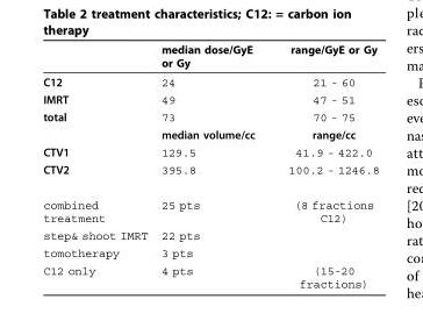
<table><thead><tr><td></td><td>median dose/GyE or Gy</td><td>range/GyE or Gy</td></tr></thead><tbody><tr><td>C12</td><td>24</td><td>21 - 60</td></tr><tr><td>IMRT</td><td>49</td><td>47 - 51</td></tr><tr><td rowspan="2">total</td><td>73</td><td>70 - 75</td></tr><tr><td>median volume/cc</td><td>range/cc</td></tr><tr><td>CTV1</td><td>129.5</td><td>41.9 - 422.0</td></tr><tr><td>CTV2</td><td>395.8</td><td>100.2 - 1246.8</td></tr><tr><td>combined treatment</td><td>25 pts</td><td>(8 fractions C12)</td></tr><tr><td>step&amp; shoot IMRT</td><td>22 pts</td><td></td></tr><tr><td>tomotherapy</td><td>3 pts</td><td></td></tr><tr><td>C12 only</td><td>4 pts</td><td>(15-20 fractions)</td></tr></tbody></table>